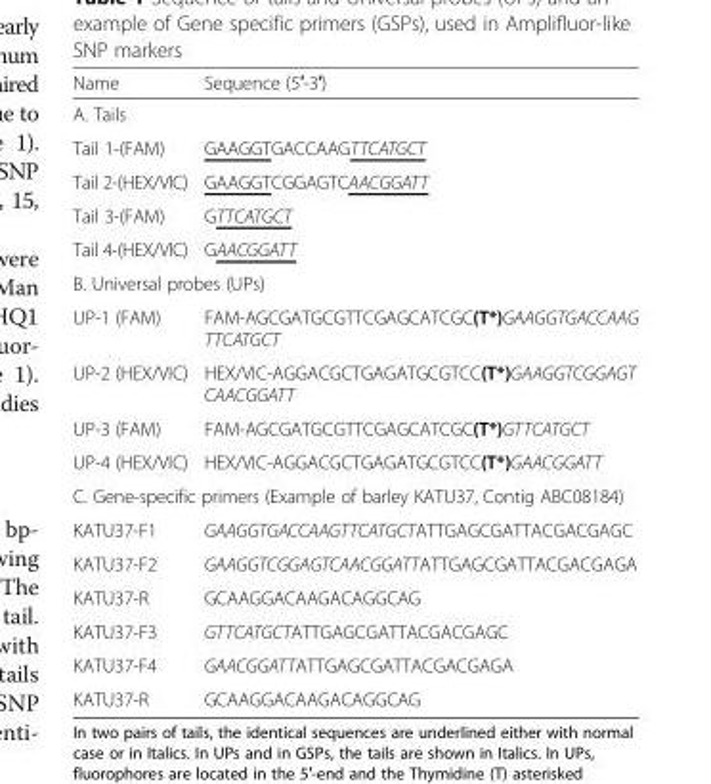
<table><thead><tr><td>Name</td><td>Sequence (5′-3′)</td></tr></thead><tbody><tr><td colspan="2">A. Tails</td></tr><tr><td>Tail 1-(FAM)</td><td>GAAGGTGACCAAGTTCATGCT</td></tr><tr><td>Tail 2-(HEX/VIC)</td><td>GAAGGTCGGAGTCAACGGATT</td></tr><tr><td>Tail 3-(FAM)</td><td>GTTCATGCT</td></tr><tr><td>Tail 4-(HEX/VIC)</td><td>GAACGGATT</td></tr><tr><td colspan="2">B. Universal probes (UPs)</td></tr><tr><td>UP-1 (FAM)</td><td>FAM-AGCGATGCGTTCGAGCATCGC(T*)GAAGGTGACCAAG TTCATGCT</td></tr><tr><td>UP-2 (HEX/VIC)</td><td>HEX/VIC-AGGACGCTGAGATGCGTCC(T*)GAAGGTCGGAGT CAACGGATT</td></tr><tr><td>UP-3 (FAM)</td><td>FAM-AGCGATGCGTTCGAGCATCGC(T*)GTTCATGCT</td></tr><tr><td>UP-4 (HEX/VIC)</td><td>HEX/VIC-AGGACGCTGAGATGCGTCC(T*)GAACGGATT</td></tr><tr><td colspan="2">C. Gene-specific primers (Example of barley KATU37, Contig ABC08184)</td></tr><tr><td>KATU37-F1</td><td>GAAGGTGACCAAGTTCATGCTATTGAGCGATTACGACGAGC</td></tr><tr><td>KATU37-F2</td><td>GAAGGTCGGAGTCAACGGATTATTGAGCGATTACGACGAGA</td></tr><tr><td>KATU37-R</td><td>GCAAGGACAAGACAGGCAG</td></tr><tr><td>KATU37-F3</td><td>GTTCATGCTATTGAGCGATTACGACGAGC</td></tr><tr><td>KATU37-F4</td><td>GAACGGATTATTGAGCGATTACGACGAGA</td></tr><tr><td>KATU37-R</td><td>GCAAGGACAAGACAGGCAG</td></tr></tbody></table>